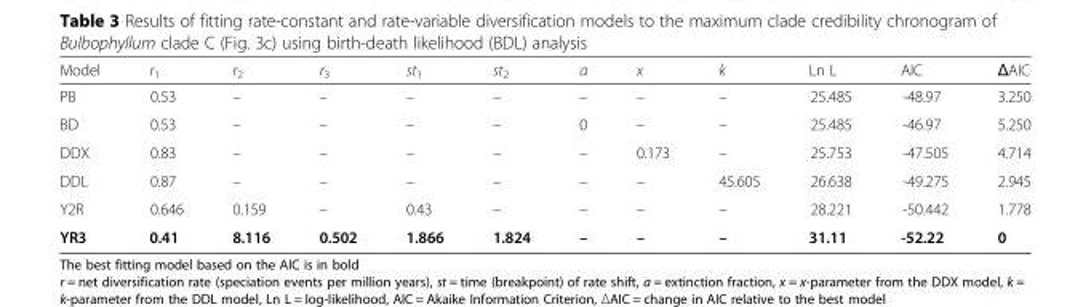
<table><thead><tr><td>Model</td><td>r<sub>1</sub></td><td>r<sub>2</sub></td><td>r<sub>3</sub></td><td>st<sub>1</sub></td><td>st<sub>2</sub></td><td>a</td><td>x</td><td>k</td><td>Ln L</td><td>AIC</td><td>ΔAIC</td></tr></thead><tbody><tr><td>PB</td><td>0.53</td><td>–</td><td>–</td><td>–</td><td>–</td><td>–</td><td>–</td><td>–</td><td>25.485</td><td>-48.97</td><td>3.250</td></tr><tr><td>BD</td><td>0.53</td><td>–</td><td>–</td><td>–</td><td>–</td><td>0</td><td>–</td><td>–</td><td>25.485</td><td>-46.97</td><td>5.250</td></tr><tr><td>DDX</td><td>0.83</td><td>–</td><td>–</td><td>–</td><td>–</td><td>–</td><td>0.173</td><td>–</td><td>25.753</td><td>-47.505</td><td>4.714</td></tr><tr><td>DDL</td><td>0.87</td><td>–</td><td>–</td><td>–</td><td>–</td><td>–</td><td>–</td><td>45.605</td><td>26.638</td><td>-49.275</td><td>2.945</td></tr><tr><td>Y2R</td><td>0.646</td><td>0.159</td><td>–</td><td>0.43</td><td>–</td><td>–</td><td>–</td><td>–</td><td>28.221</td><td>-50.442</td><td>1.778</td></tr><tr><td>YR3</td><td>0.41</td><td>8.116</td><td>0.502</td><td>1.866</td><td>1.824</td><td>–</td><td>–</td><td>–</td><td>31.11</td><td>-52.22</td><td>0</td></tr></tbody></table>